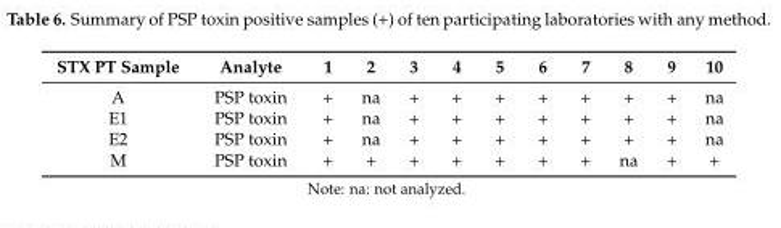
<table><thead><tr><td>STX PT Sample</td><td>Analyte</td><td>1</td><td>2</td><td>3</td><td>4</td><td>5</td><td>6</td><td>7</td><td>8</td><td>9</td><td>10</td></tr></thead><tbody><tr><td>A</td><td>PSP toxin</td><td>+</td><td>na</td><td>+</td><td>+</td><td>+</td><td>+</td><td>+</td><td>+</td><td>+</td><td>na</td></tr><tr><td>E1</td><td>PSP toxin</td><td>+</td><td>na</td><td>+</td><td>+</td><td>+</td><td>+</td><td>+</td><td>+</td><td>+</td><td>na</td></tr><tr><td>E2</td><td>PSP toxin</td><td>+</td><td>na</td><td>+</td><td>+</td><td>+</td><td>+</td><td>+</td><td>+</td><td>+</td><td>na</td></tr><tr><td>M</td><td>PSP toxin</td><td>+</td><td>+</td><td>+</td><td>+</td><td>+</td><td>+</td><td>+</td><td>na</td><td>+</td><td>+</td></tr></tbody></table>